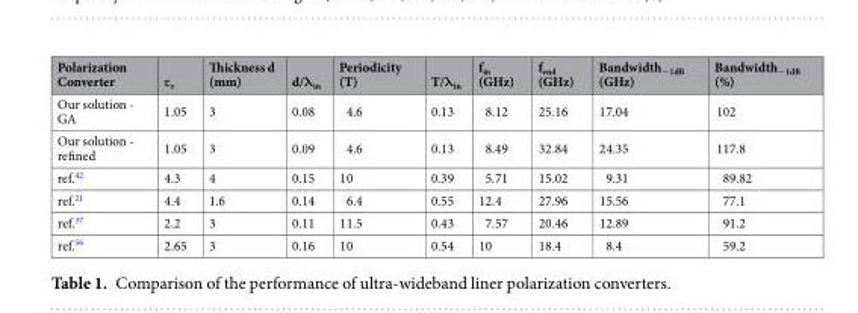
<table><thead><tr><td>Polarization Converter</td><td>ε<sub>r</sub></td><td>Thickness d (mm)</td><td>d/λ<sub>in</sub></td><td>Periodicity (T)</td><td>T/λ<sub>in</sub></td><td>f<sub>in</sub> (GHz)</td><td>f<sub>end</sub> (GHz)</td><td>Bandwidth<sub>−1dB</sub> (GHz)</td><td>Bandwidth<sub>−1dB</sub> (%)</td></tr></thead><tbody><tr><td>Our solution - GA</td><td>1.05</td><td>3</td><td>0.08</td><td>4.6</td><td>0.13</td><td>8.12</td><td>25.16</td><td>17.04</td><td>102</td></tr><tr><td>Our solution - refined</td><td>1.05</td><td>3</td><td>0.09</td><td>4.6</td><td>0.13</td><td>8.49</td><td>32.84</td><td>24.35</td><td>117.8</td></tr><tr><td>ref.<sup>42</sup></td><td>4.3</td><td>4</td><td>0.15</td><td>10</td><td>0.39</td><td>5.71</td><td>15.02</td><td>9.31</td><td>89.82</td></tr><tr><td>ref.<sup>21</sup></td><td>4.4</td><td>1.6</td><td>0.14</td><td>6.4</td><td>0.55</td><td>12.4</td><td>27.96</td><td>15.56</td><td>77.1</td></tr><tr><td>ref.<sup>37</sup></td><td>2.2</td><td>3</td><td>0.11</td><td>11.5</td><td>0.43</td><td>7.57</td><td>20.46</td><td>12.89</td><td>91.2</td></tr><tr><td>ref.<sup>56</sup></td><td>2.65</td><td>3</td><td>0.16</td><td>10</td><td>0.54</td><td>10</td><td>18.4</td><td>8.4</td><td>59.2</td></tr></tbody></table>